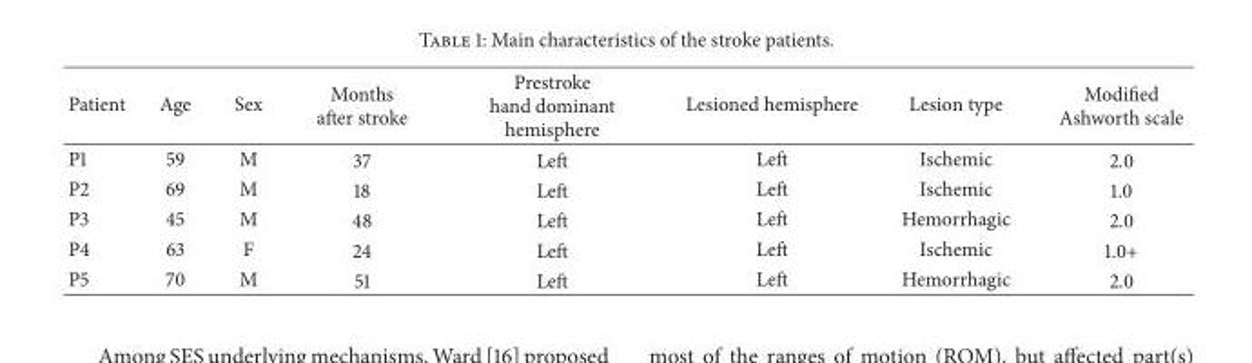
<table><thead><tr><td>Patient</td><td>Age</td><td>Sex</td><td>Months after stroke</td><td>Prestroke hand dominant hemisphere</td><td>Lesioned hemisphere</td><td>Lesion type</td><td>Modified Ashworth scale</td></tr></thead><tbody><tr><td>P1</td><td>59</td><td>M</td><td>37</td><td>Left</td><td>Left</td><td>Ischemic</td><td>2.0</td></tr><tr><td>P2</td><td>69</td><td>M</td><td>18</td><td>Left</td><td>Left</td><td>Ischemic</td><td>1.0</td></tr><tr><td>P3</td><td>45</td><td>M</td><td>48</td><td>Left</td><td>Left</td><td>Hemorrhagic</td><td>2.0</td></tr><tr><td>P4</td><td>63</td><td>F</td><td>24</td><td>Left</td><td>Left</td><td>Ischemic</td><td>1.0+</td></tr><tr><td>P5</td><td>70</td><td>M</td><td>51</td><td>Left</td><td>Left</td><td>Hemorrhagic</td><td>2.0</td></tr></tbody></table>